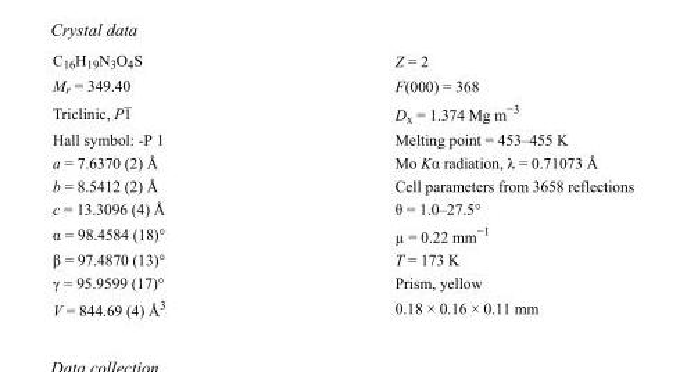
<table><tbody><tr><td>C<sub>16</sub>H<sub>19</sub>N<sub>3</sub>O<sub>4</sub>S</td><td>Z = 2</td></tr><tr><td>M<sub>r</sub> = 349.40</td><td>F(000) = 368</td></tr><tr><td>Triclinic, P1</td><td>D<sub>x</sub> = 1.374 Mg m<sup>−3</sup></td></tr><tr><td>Hall symbol: -P 1</td><td>Melting point = 453–455 K</td></tr><tr><td>a = 7.6370 (2) Å</td><td>Mo Kα radiation, λ = 0.71073 Å</td></tr><tr><td>b = 8.5412 (2) Å</td><td>Cell parameters from 3658 reflections</td></tr><tr><td>c = 13.3096 (4) Å</td><td>θ = 1.0–27.5°</td></tr><tr><td>α = 98.4584 (18)°</td><td>µ = 0.22 mm<sup>−1</sup></td></tr><tr><td>β = 97.4870 (13)°</td><td>T = 173 K</td></tr><tr><td>γ = 95.9599 (17)°</td><td>Prism, yellow</td></tr><tr><td>V = 844.69 (4) Å<sup>3</sup></td><td>0.18 × 0.16 × 0.11 mm</td></tr></tbody></table>